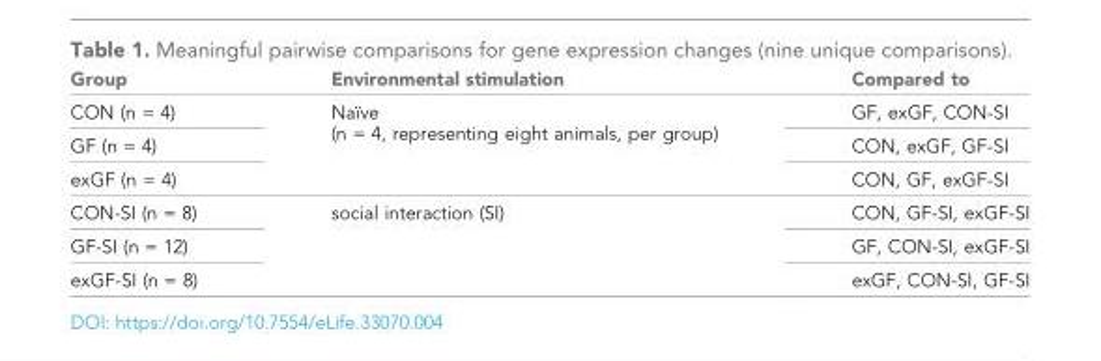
<table><thead><tr><td>Group</td><td>Environmental stimulation</td><td>Compared to</td></tr></thead><tbody><tr><td>CON (n = 4)</td><td rowspan="3">Naı¨ve (n = 4, representing eight animals, per group)</td><td>GF, exGF, CON-SI</td></tr><tr><td>GF (n = 4)</td><td>CON, exGF, GF-SI</td></tr><tr><td>exGF (n = 4)</td><td>CON, GF, exGF-SI</td></tr><tr><td>CON-SI (n = 8)</td><td rowspan="3">social interaction (SI)</td><td>CON, GF-SI, exGF-SI</td></tr><tr><td>GF-SI (n = 12)</td><td>GF, CON-SI, exGF-SI</td></tr><tr><td>exGF-SI (n = 8)</td><td>exGF, CON-SI, GF-SI</td></tr></tbody></table>